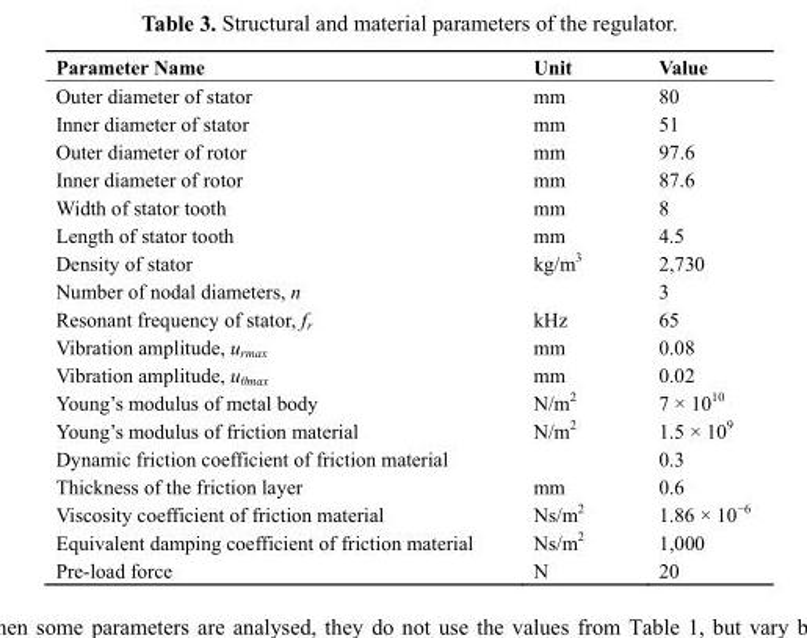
<table><thead><tr><td>Parameter Name</td><td>Unit</td><td>Value</td></tr></thead><tbody><tr><td>Outer diameter of stator</td><td>mm</td><td>80</td></tr><tr><td>Inner diameter of stator</td><td>mm</td><td>51</td></tr><tr><td>Outer diameter of rotor</td><td>mm</td><td>97.6</td></tr><tr><td>Inner diameter of rotor</td><td>mm</td><td>87.6</td></tr><tr><td>Width of stator tooth</td><td>mm</td><td>8</td></tr><tr><td>Length of stator tooth</td><td>mm</td><td>4.5</td></tr><tr><td>Density of stator</td><td>kg/m<sup>3</sup></td><td>2,730</td></tr><tr><td>Number of nodal diameters, n</td><td></td><td>3</td></tr><tr><td>Resonant frequency of stator, f<sub>r</sub></td><td>kHz</td><td>65</td></tr><tr><td>Vibration amplitude, u<sub>rmax</sub></td><td>mm</td><td>0.08</td></tr><tr><td>Vibration amplitude, u<sub>θmax</sub></td><td>mm</td><td>0.02</td></tr><tr><td>Young’s modulus of metal body</td><td>N/m<sup>2</sup></td><td>7 × 10<sup>10</sup></td></tr><tr><td>Young’s modulus of friction material</td><td>N/m<sup>2</sup></td><td>1.5 × 10<sup>9</sup></td></tr><tr><td>Dynamic friction coefficient of friction material</td><td></td><td>0.3</td></tr><tr><td>Thickness of the friction layer</td><td>mm</td><td>0.6</td></tr><tr><td>Viscosity coefficient of friction material</td><td>Ns/m<sup>2</sup></td><td>1.86 × 10<sup>−6</sup></td></tr><tr><td>Equivalent damping coefficient of friction material</td><td>Ns/m<sup>2</sup></td><td>1,000</td></tr><tr><td>Pre-load force</td><td>N</td><td>20</td></tr></tbody></table>